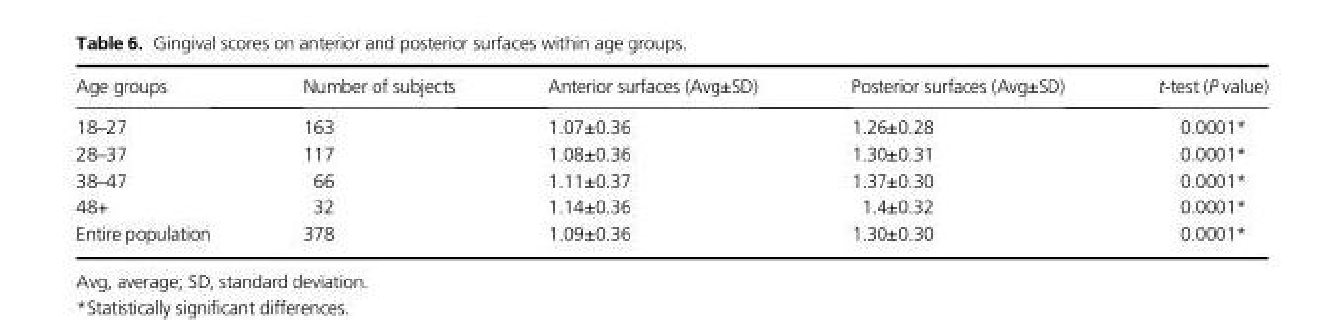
<table><thead><tr><td>Age groups</td><td>Number of subjects</td><td>Anterior surfaces (Avg±SD)</td><td>Posterior surfaces (Avg±SD)</td><td>t-test (P value)</td></tr></thead><tbody><tr><td>18–27</td><td>163</td><td>1.07±0.36</td><td>1.26±0.28</td><td>0.0001*</td></tr><tr><td>28–37</td><td>117</td><td>1.08±0.36</td><td>1.30±0.31</td><td>0.0001*</td></tr><tr><td>38–47</td><td>66</td><td>1.11±0.37</td><td>1.37±0.30</td><td>0.0001*</td></tr><tr><td>48+</td><td>32</td><td>1.14±0.36</td><td>1.4±0.32</td><td>0.0001*</td></tr><tr><td>Entire population</td><td>378</td><td>1.09±0.36</td><td>1.30±0.30</td><td>0.0001*</td></tr></tbody></table>